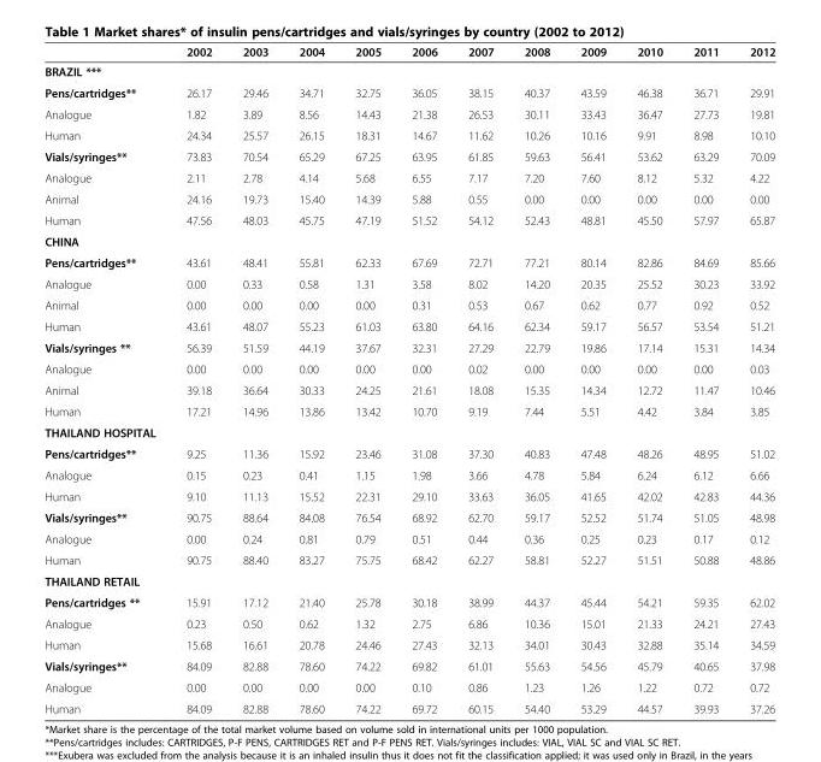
<table><thead><tr><td></td><td>2002</td><td>2003</td><td>2004</td><td>2005</td><td>2006</td><td>2007</td><td>2008</td><td>2009</td><td>2010</td><td>2011</td><td>2012</td></tr></thead><tbody><tr><td colspan="12">BRAZIL ***</td></tr><tr><td>Pens/cartridges**</td><td>26.17</td><td>29.46</td><td>34.71</td><td>32.75</td><td>36.05</td><td>38.15</td><td>40.37</td><td>43.59</td><td>46.38</td><td>36.71</td><td>29.91</td></tr><tr><td>Analogue</td><td>1.82</td><td>3.89</td><td>8.56</td><td>14.43</td><td>21.38</td><td>26.53</td><td>30.11</td><td>33.43</td><td>36.47</td><td>27.73</td><td>19.81</td></tr><tr><td>Human</td><td>24.34</td><td>25.57</td><td>26.15</td><td>18.31</td><td>14.67</td><td>11.62</td><td>10.26</td><td>10.16</td><td>9.91</td><td>8.98</td><td>10.10</td></tr><tr><td>Vials/syringes**</td><td>73.83</td><td>70.54</td><td>65.29</td><td>67.25</td><td>63.95</td><td>61.85</td><td>59.63</td><td>56.41</td><td>53.62</td><td>63.29</td><td>70.09</td></tr><tr><td>Analogue</td><td>2.11</td><td>2.78</td><td>4.14</td><td>5.68</td><td>6.55</td><td>7.17</td><td>7.20</td><td>7.60</td><td>8.12</td><td>5.32</td><td>4.22</td></tr><tr><td>Animal</td><td>24.16</td><td>19.73</td><td>15.40</td><td>14.39</td><td>5.88</td><td>0.55</td><td>0.00</td><td>0.00</td><td>0.00</td><td>0.00</td><td>0.00</td></tr><tr><td>Human</td><td>47.56</td><td>48.03</td><td>45.75</td><td>47.19</td><td>51.52</td><td>54.12</td><td>52.43</td><td>48.81</td><td>45.50</td><td>57.97</td><td>65.87</td></tr><tr><td colspan="12">CHINA</td></tr><tr><td>Pens/cartridges**</td><td>43.61</td><td>48.41</td><td>55.81</td><td>62.33</td><td>67.69</td><td>72.71</td><td>77.21</td><td>80.14</td><td>82.86</td><td>84.69</td><td>85.66</td></tr><tr><td>Analogue</td><td>0.00</td><td>0.33</td><td>0.58</td><td>1.31</td><td>3.58</td><td>8.02</td><td>14.20</td><td>20.35</td><td>25.52</td><td>30.23</td><td>33.92</td></tr><tr><td>Animal</td><td>0.00</td><td>0.00</td><td>0.00</td><td>0.00</td><td>0.31</td><td>0.53</td><td>0.67</td><td>0.62</td><td>0.77</td><td>0.92</td><td>0.52</td></tr><tr><td>Human</td><td>43.61</td><td>48.07</td><td>55.23</td><td>61.03</td><td>63.80</td><td>64.16</td><td>62.34</td><td>59.17</td><td>56.57</td><td>53.54</td><td>51.21</td></tr><tr><td>Vials/syringes **</td><td>56.39</td><td>51.59</td><td>44.19</td><td>37.67</td><td>32.31</td><td>27.29</td><td>22.79</td><td>19.86</td><td>17.14</td><td>15.31</td><td>14.34</td></tr><tr><td>Analogue</td><td>0.00</td><td>0.00</td><td>0.00</td><td>0.00</td><td>0.00</td><td>0.02</td><td>0.00</td><td>0.00</td><td>0.00</td><td>0.00</td><td>0.03</td></tr><tr><td>Animal</td><td>39.18</td><td>36.64</td><td>30.33</td><td>24.25</td><td>21.61</td><td>18.08</td><td>15.35</td><td>14.34</td><td>12.72</td><td>11.47</td><td>10.46</td></tr><tr><td>Human</td><td>17.21</td><td>14.96</td><td>13.86</td><td>13.42</td><td>10.70</td><td>9.19</td><td>7.44</td><td>5.51</td><td>4.42</td><td>3.84</td><td>3.85</td></tr><tr><td colspan="12">THAILAND HOSPITAL</td></tr><tr><td>Pens/cartridges**</td><td>9.25</td><td>11.36</td><td>15.92</td><td>23.46</td><td>31.08</td><td>37.30</td><td>40.83</td><td>47.48</td><td>48.26</td><td>48.95</td><td>51.02</td></tr><tr><td>Analogue</td><td>0.15</td><td>0.23</td><td>0.41</td><td>1.15</td><td>1.98</td><td>3.66</td><td>4.78</td><td>5.84</td><td>6.24</td><td>6.12</td><td>6.66</td></tr><tr><td>Human</td><td>9.10</td><td>11.13</td><td>15.52</td><td>22.31</td><td>29.10</td><td>33.63</td><td>36.05</td><td>41.65</td><td>42.02</td><td>42.83</td><td>44.36</td></tr><tr><td>Vials/syringes**</td><td>90.75</td><td>88.64</td><td>84.08</td><td>76.54</td><td>68.92</td><td>62.70</td><td>59.17</td><td>52.52</td><td>51.74</td><td>51.05</td><td>48.98</td></tr><tr><td>Analogue</td><td>0.00</td><td>0.24</td><td>0.81</td><td>0.79</td><td>0.51</td><td>0.44</td><td>0.36</td><td>0.25</td><td>0.23</td><td>0.17</td><td>0.12</td></tr><tr><td>Human</td><td>90.75</td><td>88.40</td><td>83.27</td><td>75.75</td><td>68.42</td><td>62.27</td><td>58.81</td><td>52.27</td><td>51.51</td><td>50.88</td><td>48.86</td></tr><tr><td colspan="12">THAILAND RETAIL</td></tr><tr><td>Pens/cartridges **</td><td>15.91</td><td>17.12</td><td>21.40</td><td>25.78</td><td>30.18</td><td>38.99</td><td>44.37</td><td>45.44</td><td>54.21</td><td>59.35</td><td>62.02</td></tr><tr><td>Analogue</td><td>0.23</td><td>0.50</td><td>0.62</td><td>1.32</td><td>2.75</td><td>6.86</td><td>10.36</td><td>15.01</td><td>21.33</td><td>24.21</td><td>27.43</td></tr><tr><td>Human</td><td>15.68</td><td>16.61</td><td>20.78</td><td>24.46</td><td>27.43</td><td>32.13</td><td>34.01</td><td>30.43</td><td>32.88</td><td>35.14</td><td>34.59</td></tr><tr><td>Vials/syringes**</td><td>84.09</td><td>82.88</td><td>78.60</td><td>74.22</td><td>69.82</td><td>61.01</td><td>55.63</td><td>54.56</td><td>45.79</td><td>40.65</td><td>37.98</td></tr><tr><td>Analogue</td><td>0.00</td><td>0.00</td><td>0.00</td><td>0.00</td><td>0.10</td><td>0.86</td><td>1.23</td><td>1.26</td><td>1.22</td><td>0.72</td><td>0.72</td></tr><tr><td>Human</td><td>84.09</td><td>82.88</td><td>78.60</td><td>74.22</td><td>69.72</td><td>60.15</td><td>54.40</td><td>53.29</td><td>44.57</td><td>39.93</td><td>37.26</td></tr></tbody></table>